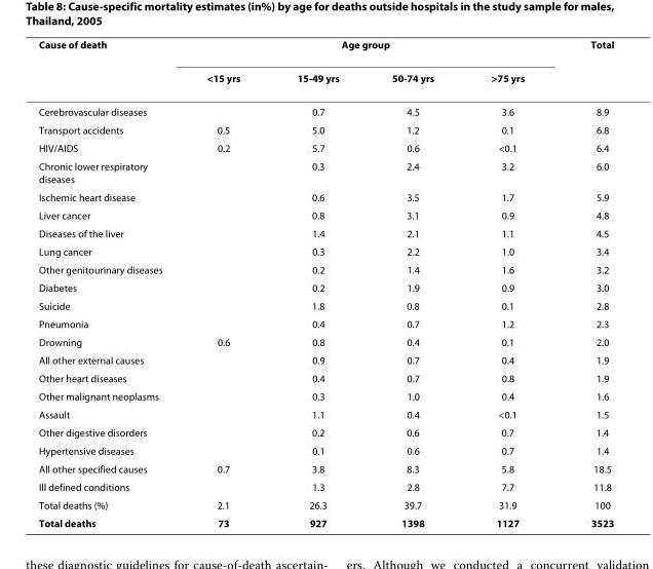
<table><thead><tr><td rowspan="2">Cause of death</td><td colspan="4">Age group</td><td rowspan="2">Total</td></tr><tr><td>&lt;15 yrs</td><td>15-49 yrs</td><td>50-74 yrs</td><td>&gt;75 yrs</td></tr></thead><tbody><tr><td>Cerebrovascular diseases</td><td></td><td>0.7</td><td>4.5</td><td>3.6</td><td>8.9</td></tr><tr><td>Transport accidents</td><td>0.5</td><td>5.0</td><td>1.2</td><td>0.1</td><td>6.8</td></tr><tr><td>HIV/AIDS</td><td>0.2</td><td>5.7</td><td>0.6</td><td>&lt;0.1</td><td>6.4</td></tr><tr><td>Chronic lower respiratory diseases</td><td></td><td>0.3</td><td>2.4</td><td>3.2</td><td>6.0</td></tr><tr><td>Ischemic heart disease</td><td></td><td>0.6</td><td>3.5</td><td>1.7</td><td>5.9</td></tr><tr><td>Liver cancer</td><td></td><td>0.8</td><td>3.1</td><td>0.9</td><td>4.8</td></tr><tr><td>Diseases of the liver</td><td></td><td>1.4</td><td>2.1</td><td>1.1</td><td>4.5</td></tr><tr><td>Lung cancer</td><td></td><td>0.3</td><td>2.2</td><td>1.0</td><td>3.4</td></tr><tr><td>Other genitourinary diseases</td><td></td><td>0.2</td><td>1.4</td><td>1.6</td><td>3.2</td></tr><tr><td>Diabetes</td><td></td><td>0.2</td><td>1.9</td><td>0.9</td><td>3.0</td></tr><tr><td>Suicide</td><td></td><td>1.8</td><td>0.8</td><td>0.1</td><td>2.8</td></tr><tr><td>Pneumonia</td><td></td><td>0.4</td><td>0.7</td><td>1.2</td><td>2.3</td></tr><tr><td>Drowning</td><td>0.6</td><td>0.8</td><td>0.4</td><td>0.1</td><td>2.0</td></tr><tr><td>All other external causes</td><td></td><td>0.9</td><td>0.7</td><td>0.4</td><td>1.9</td></tr><tr><td>Other heart diseases</td><td></td><td>0.4</td><td>0.7</td><td>0.8</td><td>1.9</td></tr><tr><td>Other malignant neoplasms</td><td></td><td>0.3</td><td>1.0</td><td>0.4</td><td>1.6</td></tr><tr><td>Assault</td><td></td><td>1.1</td><td>0.4</td><td>&lt;0.1</td><td>1.5</td></tr><tr><td>Other digestive disorders</td><td></td><td>0.2</td><td>0.6</td><td>0.7</td><td>1.4</td></tr><tr><td>Hypertensive diseases</td><td></td><td>0.1</td><td>0.6</td><td>0.7</td><td>1.4</td></tr><tr><td>All other specified causes</td><td>0.7</td><td>3.8</td><td>8.3</td><td>5.8</td><td>18.5</td></tr><tr><td>Ill defined conditions</td><td></td><td>1.3</td><td>2.8</td><td>7.7</td><td>11.8</td></tr><tr><td>Total deaths (%)</td><td>2.1</td><td>26.3</td><td>39.7</td><td>31.9</td><td>100</td></tr><tr><td>Total deaths</td><td>73</td><td>927</td><td>1398</td><td>1127</td><td>3523</td></tr></tbody></table>